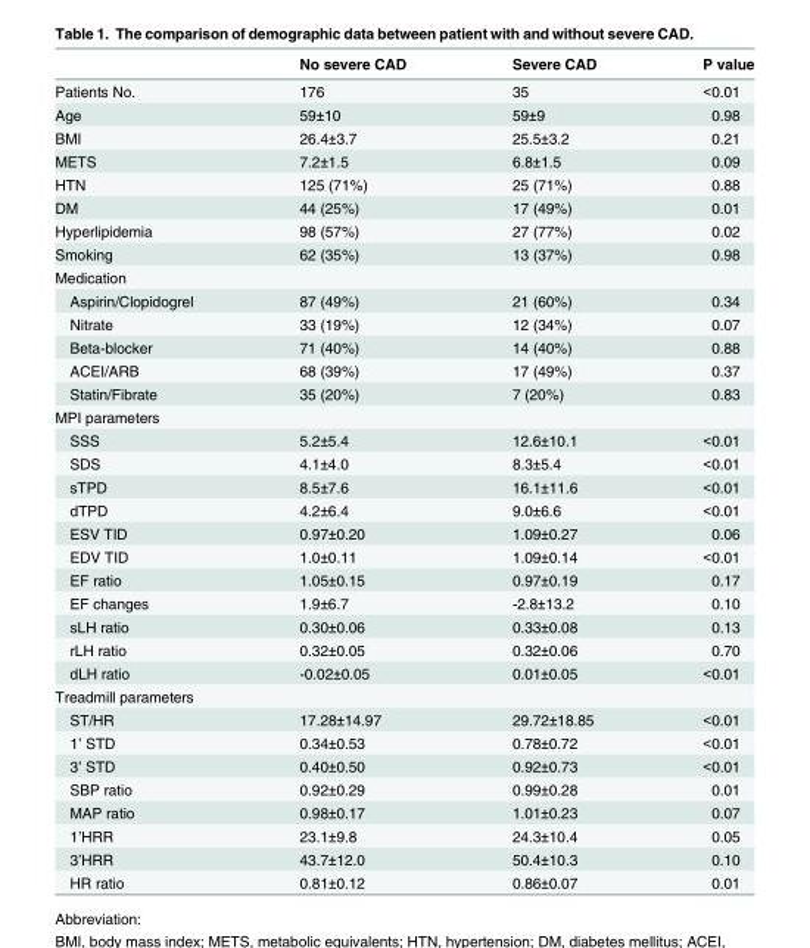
<table><thead><tr><td></td><td>No severe CAD</td><td>Severe CAD</td><td>P value</td></tr></thead><tbody><tr><td>Patients No.</td><td>176</td><td>35</td><td>&lt;0.01</td></tr><tr><td>Age</td><td>59±10</td><td>59±9</td><td>0.98</td></tr><tr><td>BMI</td><td>26.4±3.7</td><td>25.5±3.2</td><td>0.21</td></tr><tr><td>METS</td><td>7.2±1.5</td><td>6.8±1.5</td><td>0.09</td></tr><tr><td>HTN</td><td>125 (71%)</td><td>25 (71%)</td><td>0.88</td></tr><tr><td>DM</td><td>44 (25%)</td><td>17 (49%)</td><td>0.01</td></tr><tr><td>Hyperlipidemia</td><td>98 (57%)</td><td>27 (77%)</td><td>0.02</td></tr><tr><td>Smoking</td><td>62 (35%)</td><td>13 (37%)</td><td>0.98</td></tr><tr><td colspan="4">Medication</td></tr><tr><td>Aspirin/Clopidogrel</td><td>87 (49%)</td><td>21 (60%)</td><td>0.34</td></tr><tr><td>Nitrate</td><td>33 (19%)</td><td>12 (34%)</td><td>0.07</td></tr><tr><td>Beta-blocker</td><td>71 (40%)</td><td>14 (40%)</td><td>0.88</td></tr><tr><td>ACEI/ARB</td><td>68 (39%)</td><td>17 (49%)</td><td>0.37</td></tr><tr><td>Statin/Fibrate</td><td>35 (20%)</td><td>7 (20%)</td><td>0.83</td></tr><tr><td colspan="4">MPI parameters</td></tr><tr><td>SSS</td><td>5.2±5.4</td><td>12.6±10.1</td><td>&lt;0.01</td></tr><tr><td>SDS</td><td>4.1±4.0</td><td>8.3±5.4</td><td>&lt;0.01</td></tr><tr><td>sTPD</td><td>8.5±7.6</td><td>16.1±11.6</td><td>&lt;0.01</td></tr><tr><td>dTPD</td><td>4.2±6.4</td><td>9.0±6.6</td><td>&lt;0.01</td></tr><tr><td>ESV TID</td><td>0.97±0.20</td><td>1.09±0.27</td><td>0.06</td></tr><tr><td>EDV TID</td><td>1.0±0.11</td><td>1.09±0.14</td><td>&lt;0.01</td></tr><tr><td>EF ratio</td><td>1.05±0.15</td><td>0.97±0.19</td><td>0.17</td></tr><tr><td>EF changes</td><td>1.9±6.7</td><td>-2.8±13.2</td><td>0.10</td></tr><tr><td>sLH ratio</td><td>0.30±0.06</td><td>0.33±0.08</td><td>0.13</td></tr><tr><td>rLH ratio</td><td>0.32±0.05</td><td>0.32±0.06</td><td>0.70</td></tr><tr><td>dLH ratio</td><td>-0.02±0.05</td><td>0.01±0.05</td><td>&lt;0.01</td></tr><tr><td colspan="4">Treadmill parameters</td></tr><tr><td>ST/HR</td><td>17.28±14.97</td><td>29.72±18.85</td><td>&lt;0.01</td></tr><tr><td>1’ STD</td><td>0.34±0.53</td><td>0.78±0.72</td><td>&lt;0.01</td></tr><tr><td>3’ STD</td><td>0.40±0.50</td><td>0.92±0.73</td><td>&lt;0.01</td></tr><tr><td>SBP ratio</td><td>0.92±0.29</td><td>0.99±0.28</td><td>0.01</td></tr><tr><td>MAP ratio</td><td>0.98±0.17</td><td>1.01±0.23</td><td>0.07</td></tr><tr><td>1’HRR</td><td>23.1±9.8</td><td>24.3±10.4</td><td>0.05</td></tr><tr><td>3’HRR</td><td>43.7±12.0</td><td>50.4±10.3</td><td>0.10</td></tr><tr><td>HR ratio</td><td>0.81±0.12</td><td>0.86±0.07</td><td>0.01</td></tr></tbody></table>